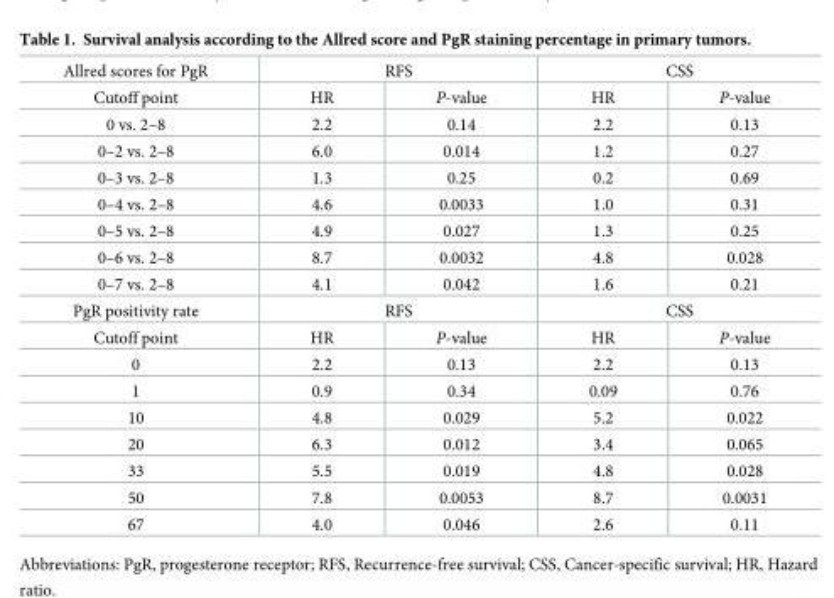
<table><tbody><tr><td>Allred scores for PgR</td><td colspan="2">RFS</td><td colspan="2">CSS</td></tr><tr><td>Cutoff point</td><td>HR</td><td>P-value</td><td>HR</td><td>P-value</td></tr><tr><td>0 vs. 2–8</td><td>2.2</td><td>0.14</td><td>2.2</td><td>0.13</td></tr><tr><td>0–2 vs. 2–8</td><td>6.0</td><td>0.014</td><td>1.2</td><td>0.27</td></tr><tr><td>0–3 vs. 2–8</td><td>1.3</td><td>0.25</td><td>0.2</td><td>0.69</td></tr><tr><td>0–4 vs. 2–8</td><td>4.6</td><td>0.0033</td><td>1.0</td><td>0.31</td></tr><tr><td>0–5 vs. 2–8</td><td>4.9</td><td>0.027</td><td>1.3</td><td>0.25</td></tr><tr><td>0–6 vs. 2–8</td><td>8.7</td><td>0.0032</td><td>4.8</td><td>0.028</td></tr><tr><td>0–7 vs. 2–8</td><td>4.1</td><td>0.042</td><td>1.6</td><td>0.21</td></tr><tr><td>PgR positivity rate</td><td colspan="2">RFS</td><td colspan="2">CSS</td></tr><tr><td>Cutoff point</td><td>HR</td><td>P-value</td><td>HR</td><td>P-value</td></tr><tr><td>0</td><td>2.2</td><td>0.13</td><td>2.2</td><td>0.13</td></tr><tr><td>1</td><td>0.9</td><td>0.34</td><td>0.09</td><td>0.76</td></tr><tr><td>10</td><td>4.8</td><td>0.029</td><td>5.2</td><td>0.022</td></tr><tr><td>20</td><td>6.3</td><td>0.012</td><td>3.4</td><td>0.065</td></tr><tr><td>33</td><td>5.5</td><td>0.019</td><td>4.8</td><td>0.028</td></tr><tr><td>50</td><td>7.8</td><td>0.0053</td><td>8.7</td><td>0.0031</td></tr><tr><td>67</td><td>4.0</td><td>0.046</td><td>2.6</td><td>0.11</td></tr></tbody></table>